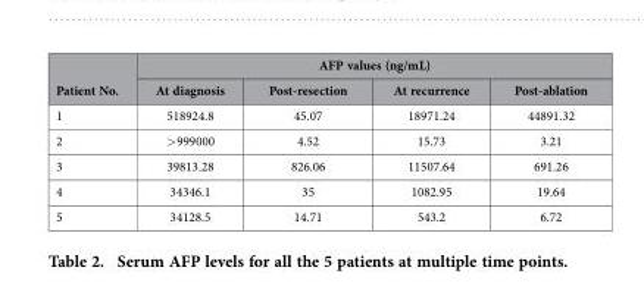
<table><thead><tr><td rowspan="2">Patient No.</td><td colspan="4">AFP values (ng/mL)</td></tr><tr><td>At diagnosis</td><td>Post-resection</td><td>At recurrence</td><td>Post-ablation</td></tr></thead><tbody><tr><td>1</td><td>518924.8</td><td>45.07</td><td>18971.24</td><td>44891.32</td></tr><tr><td>2</td><td>&gt; 999000</td><td>4.52</td><td>15.73</td><td>3.21</td></tr><tr><td>3</td><td>39813.28</td><td>826.06</td><td>11507.64</td><td>691.26</td></tr><tr><td>4</td><td>34346.1</td><td>35</td><td>1082.95</td><td>19.64</td></tr><tr><td>5</td><td>34128.5</td><td>14.71</td><td>543.2</td><td>6.72</td></tr></tbody></table>